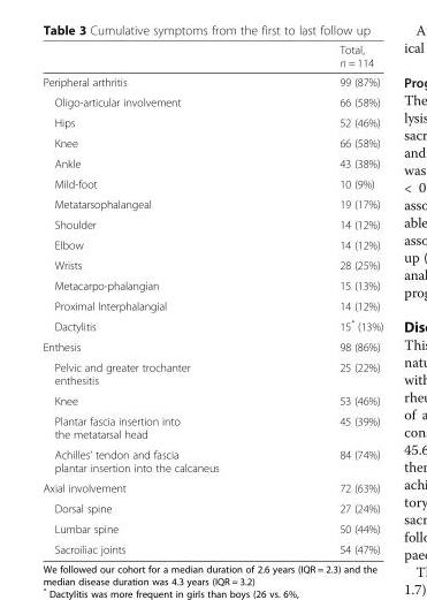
<table><thead><tr><td></td><td>Total, n = 114</td></tr></thead><tbody><tr><td>Peripheral arthritis</td><td>99 (87%)</td></tr><tr><td>Oligo-articular involvement</td><td>66 (58%)</td></tr><tr><td>Hips</td><td>52 (46%)</td></tr><tr><td>Knee</td><td>66 (58%)</td></tr><tr><td>Ankle</td><td>43 (38%)</td></tr><tr><td>Mild-foot</td><td>10 (9%)</td></tr><tr><td>Metatarsophalangeal</td><td>19 (17%)</td></tr><tr><td>Shoulder</td><td>14 (12%)</td></tr><tr><td>Elbow</td><td>14 (12%)</td></tr><tr><td>Wrists</td><td>28 (25%)</td></tr><tr><td>Metacarpo-phalangian</td><td>15 (13%)</td></tr><tr><td>Proximal Interphalangial</td><td>14 (12%)</td></tr><tr><td>Dactylitis</td><td>15* (13%)</td></tr><tr><td>Enthesis</td><td>98 (86%)</td></tr><tr><td>Pelvic and greater trochanter enthesitis</td><td>25 (22%)</td></tr><tr><td>Knee</td><td>53 (46%)</td></tr><tr><td>Plantar fascia insertion into the metatarsal head</td><td>45 (39%)</td></tr><tr><td>Achilles’ tendon and fascia plantar insertion into the calcaneus</td><td>84 (74%)</td></tr><tr><td>Axial involvement</td><td>72 (63%)</td></tr><tr><td>Dorsal spine</td><td>27 (24%)</td></tr><tr><td>Lumbar spine</td><td>50 (44%)</td></tr><tr><td>Sacroiliac joints</td><td>54 (47%)</td></tr></tbody></table>